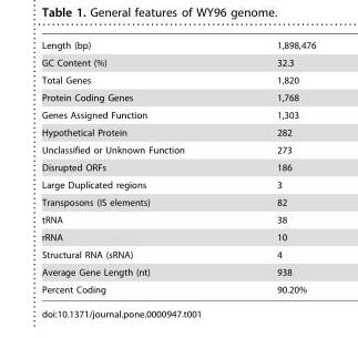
<table><tbody><tr><td>Length (bp)</td><td>1,898,476</td></tr><tr><td>GC Content (%)</td><td>32.3</td></tr><tr><td>Total Genes</td><td>1,820</td></tr><tr><td>Protein Coding Genes</td><td>1,768</td></tr><tr><td>Genes Assigned Function</td><td>1,303</td></tr><tr><td>Hypothetical Protein</td><td>282</td></tr><tr><td>Unclassified or Unknown Function</td><td>273</td></tr><tr><td>Disrupted ORFs</td><td>186</td></tr><tr><td>Large Duplicated regions</td><td>3</td></tr><tr><td>Transposons (IS elements)</td><td>82</td></tr><tr><td>tRNA</td><td>38</td></tr><tr><td>rRNA</td><td>10</td></tr><tr><td>Structural RNA (sRNA)</td><td>4</td></tr><tr><td>Average Gene Length (nt)</td><td>938</td></tr><tr><td>Percent Coding</td><td>90.20%</td></tr></tbody></table>